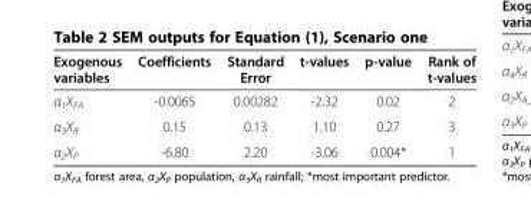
<table><thead><tr><td>Exogenous variables</td><td>Coefficients</td><td>Standard Error</td><td>t-values</td><td>p-value</td><td>Rank of t-values</td></tr></thead><tbody><tr><td>α<sub>1</sub>X<sub>FA</sub></td><td>-0.0065</td><td>0.00282</td><td>-2.32</td><td>0.02</td><td>2</td></tr><tr><td>α<sub>3</sub>X<sub>R</sub></td><td>0.15</td><td>0.13</td><td>1.10</td><td>0.27</td><td>3</td></tr><tr><td>α<sub>2</sub>X<sub>P</sub></td><td>-6.80</td><td>2.20</td><td>-3.06</td><td>0.004*</td><td>1</td></tr></tbody></table>